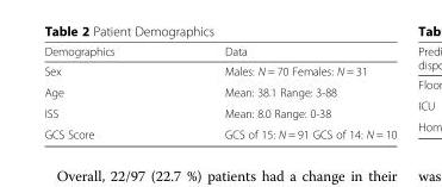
<table><thead><tr><td>Demographics</td><td>Data</td></tr></thead><tbody><tr><td>Sex</td><td>Males: N = 70 Females: N = 31</td></tr><tr><td>Age</td><td>Mean: 38.1 Range: 3-88</td></tr><tr><td>ISS</td><td>Mean: 8.0 Range: 0-38</td></tr><tr><td>GCS Score</td><td>GCS of 15: N = 91 GCS of 14: N = 10</td></tr></tbody></table>